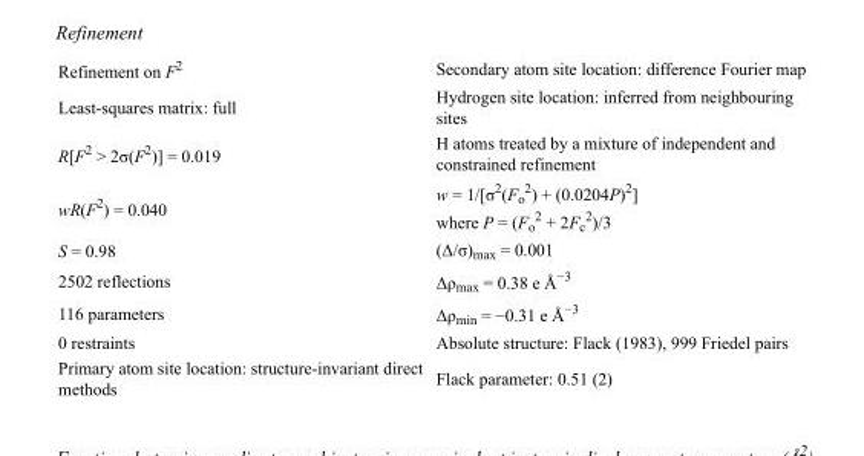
<table><tbody><tr><td>Refinement on F<sup>2</sup></td><td>Secondary atom site location: difference Fourier map</td></tr><tr><td>Least-squares matrix: full</td><td>Hydrogen site location: inferred from neighbouring sites</td></tr><tr><td>R[F<sup>2</sup> &gt; 2σ(F<sup>2</sup>)] = 0.019</td><td>H atoms treated by a mixture of independent and constrained refinement</td></tr><tr><td>wR(F<sup>2</sup>) = 0.040</td><td>w = 1/[σ<sup>2</sup>(F<sub>o</sub> <sup>2</sup>) + (0.0204P)<sup>2</sup>] where P = (F<sub>o</sub> <sup>2</sup> + 2F<sub>c</sub> <sup>2</sup>)/3</td></tr><tr><td>S = 0.98</td><td>(Δ/σ)<sub>max</sub> = 0.001</td></tr><tr><td>2502 reflections</td><td>Δρ<sub>max</sub> = 0.38 e Å<sup>−3</sup></td></tr><tr><td>116 parameters</td><td>Δρ<sub>min</sub> = −0.31 e Å<sup>−3</sup></td></tr><tr><td>0 restraints</td><td>Absolute structure: Flack (1983), 999 Friedel pairs</td></tr><tr><td>Primary atom site location: structure-invariant direct methods</td><td>Flack parameter: 0.51 (2)</td></tr></tbody></table>